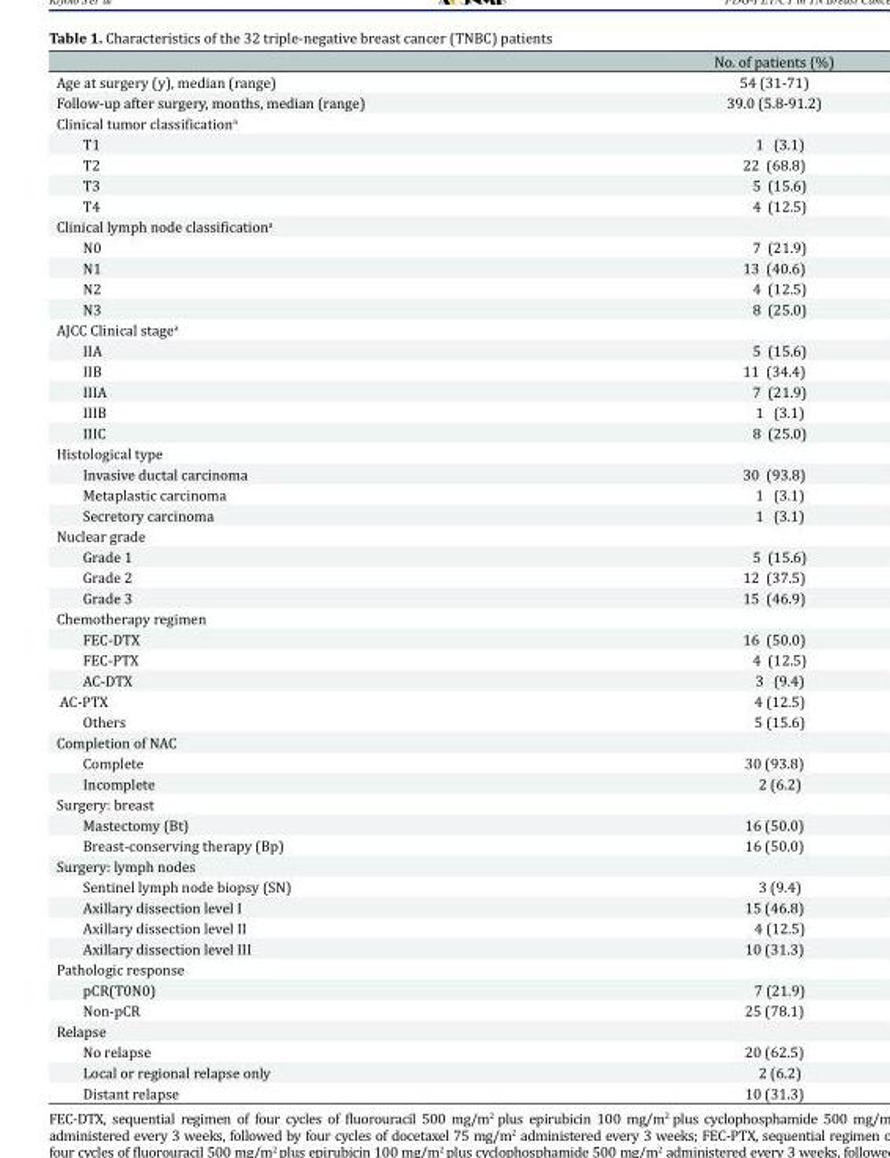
<table><thead><tr><td></td><td>No. of patients (%)</td></tr></thead><tbody><tr><td>Age at surgery (y), median (range)</td><td>54 (31-71)</td></tr><tr><td>Follow-up after surgery, months, median (range)</td><td>39.0 (5.8-91.2)</td></tr><tr><td colspan="2">Clinical tumor classification<sup>a</sup></td></tr><tr><td>T1</td><td>1 (3.1)</td></tr><tr><td>T2</td><td>22 (68.8)</td></tr><tr><td>T3</td><td>5 (15.6)</td></tr><tr><td>T4</td><td>4 (12.5)</td></tr><tr><td colspan="2">Clinical lymph node classification<sup>a</sup></td></tr><tr><td>N0</td><td>7 (21.9)</td></tr><tr><td>N1</td><td>13 (40.6)</td></tr><tr><td>N2</td><td>4 (12.5)</td></tr><tr><td>N3</td><td>8 (25.0)</td></tr><tr><td colspan="2">AJCC Clinical stage<sup>a</sup></td></tr><tr><td>IIA</td><td>5 (15.6)</td></tr><tr><td>IIB</td><td>11 (34.4)</td></tr><tr><td>IIIA</td><td>7 (21.9)</td></tr><tr><td>IIIB</td><td>1 (3.1)</td></tr><tr><td>IIIC</td><td>8 (25.0)</td></tr><tr><td colspan="2">Histological type</td></tr><tr><td>Invasive ductal carcinoma</td><td>30 (93.8)</td></tr><tr><td>Metaplastic carcinoma</td><td>1 (3.1)</td></tr><tr><td>Secretory carcinoma</td><td>1 (3.1)</td></tr><tr><td colspan="2">Nuclear grade</td></tr><tr><td>Grade 1</td><td>5 (15.6)</td></tr><tr><td>Grade 2</td><td>12 (37.5)</td></tr><tr><td>Grade 3</td><td>15 (46.9)</td></tr><tr><td colspan="2">Chemotherapy regimen</td></tr><tr><td>FEC-DTX</td><td>16 (50.0)</td></tr><tr><td>FEC-PTX</td><td>4 (12.5)</td></tr><tr><td>AC-DTX</td><td>3 (9.4)</td></tr><tr><td>AC-PTX</td><td>4 (12.5)</td></tr><tr><td>Others</td><td>5 (15.6)</td></tr><tr><td colspan="2">Completion of NAC</td></tr><tr><td>Complete</td><td>30 (93.8)</td></tr><tr><td>Incomplete</td><td>2 (6.2)</td></tr><tr><td colspan="2">Surgery: breast</td></tr><tr><td>Mastectomy (Bt)</td><td>16 (50.0)</td></tr><tr><td>Breast-conserving therapy (Bp)</td><td>16 (50.0)</td></tr><tr><td colspan="2">Surgery: lymph nodes</td></tr><tr><td>Sentinel lymph node biopsy (SN)</td><td>3 (9.4)</td></tr><tr><td>Axillary dissection level I</td><td>15 (46.8)</td></tr><tr><td>Axillary dissection level II</td><td>4 (12.5)</td></tr><tr><td>Axillary dissection level III</td><td>10 (31.3)</td></tr><tr><td colspan="2">Pathologic response</td></tr><tr><td>pCR(T0N0)</td><td>7 (21.9)</td></tr><tr><td>Non-pCR</td><td>25 (78.1)</td></tr><tr><td colspan="2">Relapse</td></tr><tr><td>No relapse</td><td>20 (62.5)</td></tr><tr><td>Local or regional relapse only</td><td>2 (6.2)</td></tr><tr><td>Distant relapse</td><td>10 (31.3)</td></tr></tbody></table>